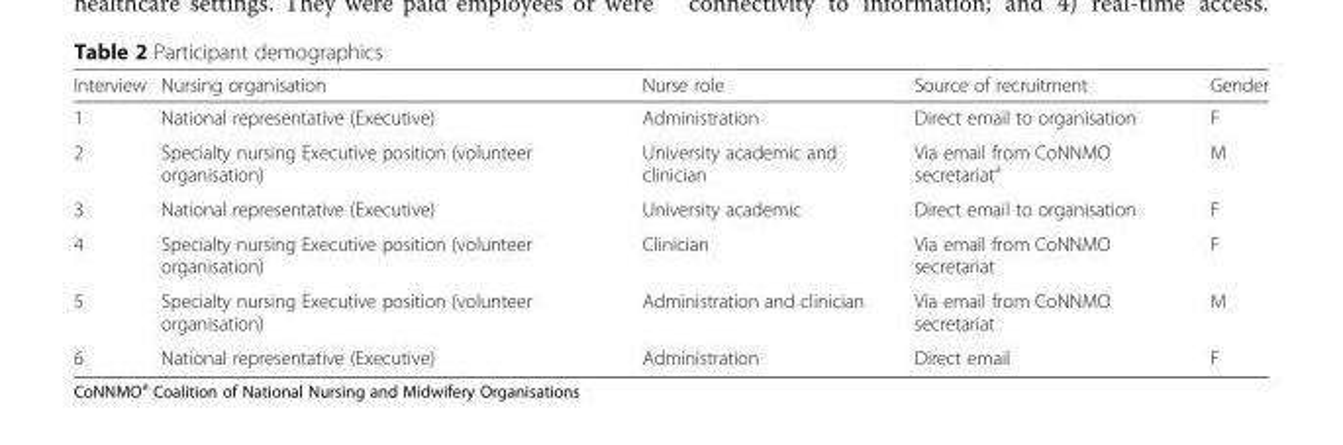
<table><thead><tr><td>Interview</td><td>Nursing organisation</td><td>Nurse role</td><td>Source of recruitment</td><td>Gender</td></tr></thead><tbody><tr><td>1</td><td>National representative (Executive)</td><td>Administration</td><td>Direct email to organisation</td><td>F</td></tr><tr><td>2</td><td>Specialty nursing Executive position (volunteer organisation)</td><td>University academic and clinician</td><td>Via email from CoNNMO secretariat<sup>a</sup></td><td>M</td></tr><tr><td>3</td><td>National representative (Executive)</td><td>University academic</td><td>Direct email to organisation</td><td>F</td></tr><tr><td>4</td><td>Specialty nursing Executive position (volunteer organisation)</td><td>Clinician</td><td>Via email from CoNNMO secretariat</td><td>F</td></tr><tr><td>5</td><td>Specialty nursing Executive position (volunteer organisation)</td><td>Administration and clinician</td><td>Via email from CoNNMO secretariat</td><td>M</td></tr><tr><td>6</td><td>National representative (Executive)</td><td>Administration</td><td>Direct email</td><td>F</td></tr></tbody></table>